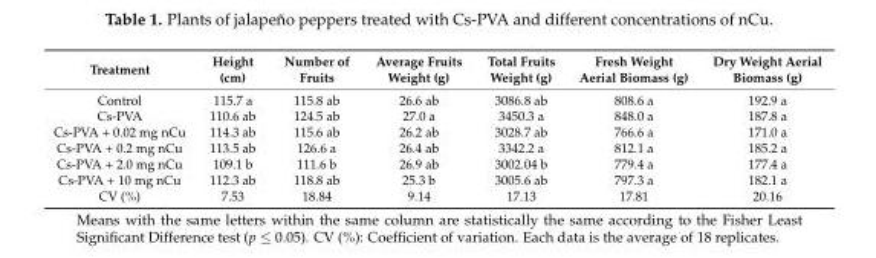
<table><thead><tr><td>Treatment</td><td>Height (cm)</td><td>Number of Fruits</td><td>Average Fruits Weight (g)</td><td>Total Fruits Weight (g)</td><td>Fresh Weight Aerial Biomass (g)</td><td>Dry Weight Aerial Biomass (g)</td></tr></thead><tbody><tr><td>Control</td><td>115.7 a</td><td>115.8 ab</td><td>26.6 ab</td><td>3086.8 ab</td><td>808.6 a</td><td>192.9 a</td></tr><tr><td>Cs-PVA</td><td>110.6 ab</td><td>124.5 ab</td><td>27.0 a</td><td>3450.3 a</td><td>848.0 a</td><td>187.8 a</td></tr><tr><td>Cs-PVA + 0.02 mg nCu</td><td>114.3 ab</td><td>115.6 ab</td><td>26.2 ab</td><td>3028.7 ab</td><td>766.6 a</td><td>171.0 a</td></tr><tr><td>Cs-PVA + 0.2 mg nCu</td><td>113.5 ab</td><td>126.6 a</td><td>26.4 ab</td><td>3342.2 a</td><td>812.1 a</td><td>185.2 a</td></tr><tr><td>Cs-PVA + 2.0 mg nCu</td><td>109.1 b</td><td>111.6 b</td><td>26.9 ab</td><td>3002.04 b</td><td>779.4 a</td><td>177.4 a</td></tr><tr><td>Cs-PVA + 10 mg nCu</td><td>112.3 ab</td><td>118.8 ab</td><td>25.3 b</td><td>3005.6 ab</td><td>797.3 a</td><td>182.1 a</td></tr><tr><td>CV (%)</td><td>7.53</td><td>18.84</td><td>9.14</td><td>17.13</td><td>17.81</td><td>20.16</td></tr></tbody></table>